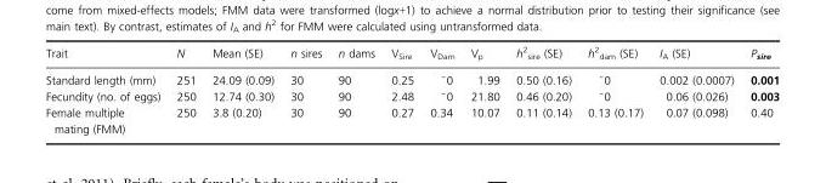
<table><thead><tr><td>Trait</td><td>N</td><td>Mean (SE)</td><td>n sires</td><td>n dams</td><td>V<sub>Sire</sub></td><td>V<sub>Dam</sub></td><td>V<sub>p</sub></td><td>h<sup>2</sup> <sub>sire</sub> (SE)</td><td>h<sup>2</sup> <sub>dam</sub> (SE)</td><td>I<sub>A</sub> (SE)</td><td>P<sub>sire</sub></td></tr></thead><tbody><tr><td>Standard length (mm)</td><td>251</td><td>24.09 (0.09)</td><td>30</td><td>90</td><td>0.25</td><td>~0</td><td>1.99</td><td>0.50 (0.16)</td><td>~0</td><td>0.002 (0.0007)</td><td>0.001</td></tr><tr><td>Fecundity (no. of eggs)</td><td>250</td><td>12.74 (0.30)</td><td>30</td><td>90</td><td>2.48</td><td>~0</td><td>21.80</td><td>0.46 (0.20)</td><td>~0</td><td>0.06 (0.026)</td><td>0.003</td></tr><tr><td>Female multiple mating (FMM)</td><td>250</td><td>3.8 (0.20)</td><td>30</td><td>90</td><td>0.27</td><td>0.34</td><td>10.07</td><td>0.11 (0.14)</td><td>0.13 (0.17)</td><td>0.07 (0.098)</td><td>0.40</td></tr></tbody></table>